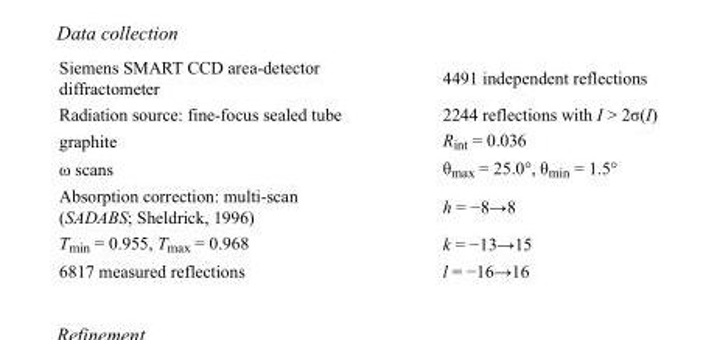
<table><tbody><tr><td>Siemens SMART CCD area-detector diffractometer</td><td>4491 independent reflections</td></tr><tr><td>Radiation source: fine-focus sealed tube</td><td>2244 reflections with I &gt; 2σ(I)</td></tr><tr><td>graphite</td><td>R<sub>int</sub> = 0.036</td></tr><tr><td>ω scans</td><td>θ<sub>max</sub> = 25.0°, θ<sub>min</sub> = 1.5°</td></tr><tr><td>Absorption correction: multi-scan (SADABS; Sheldrick, 1996)</td><td>h = −8→8</td></tr><tr><td>T<sub>min</sub> = 0.955, T<sub>max</sub> = 0.968</td><td>k = −13→15</td></tr><tr><td>6817 measured reflections</td><td>l = −16→16</td></tr></tbody></table>